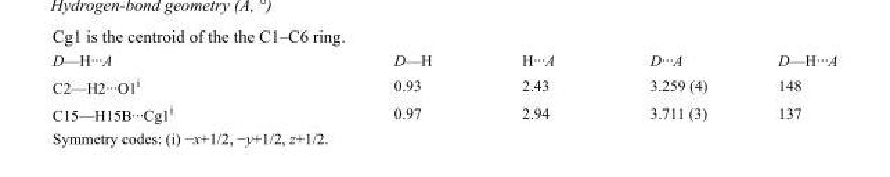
<table><tbody><tr><td>D—H···A</td><td>D—H</td><td>H···A</td><td>D···A</td><td>D—H···A</td></tr><tr><td>C2—H2···O1<sup>i</sup></td><td>0.93</td><td>2.43</td><td>3.259 (4)</td><td>148</td></tr><tr><td>C15—H15B···Cg1<sup>i</sup></td><td>0.97</td><td>2.94</td><td>3.711 (3)</td><td>137</td></tr></tbody></table>